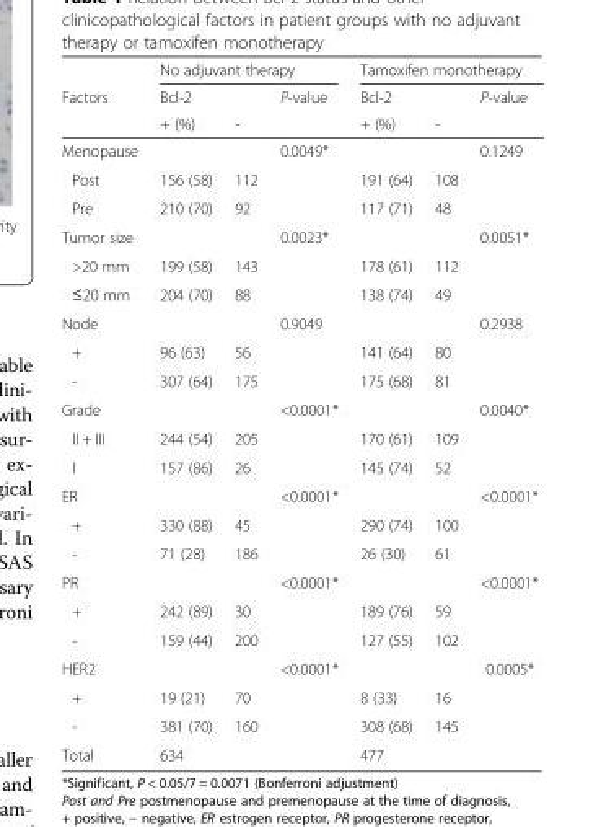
<table><thead><tr><td rowspan="3">Factors</td><td colspan="3">No adjuvant therapy</td><td colspan="3">Tamoxifen monotherapy</td></tr><tr><td rowspan="2">Bcl-2 + (%)</td><td rowspan="2">-</td><td rowspan="2">P-value</td><td rowspan="2">Bcl-2 + (%)</td><td rowspan="2">-</td><td rowspan="2">P-value</td></tr><tr></tr></thead><tbody><tr><td>Menopause</td><td></td><td></td><td>0.0049*</td><td></td><td></td><td>0.1249</td></tr><tr><td>Post</td><td>156 (58)</td><td>112</td><td></td><td>191 (64)</td><td>108</td><td></td></tr><tr><td>Pre</td><td>210 (70)</td><td>92</td><td></td><td>117 (71)</td><td>48</td><td></td></tr><tr><td>Tumor size</td><td colspan="2"></td><td>0.0023*</td><td colspan="2"></td><td>0.0051*</td></tr><tr><td>&gt;20 mm</td><td>199 (58)</td><td>143</td><td></td><td>178 (61)</td><td>112</td><td></td></tr><tr><td>≤20 mm</td><td>204 (70)</td><td>88</td><td></td><td>138 (74)</td><td>49</td><td></td></tr><tr><td>Node</td><td colspan="2"></td><td>0.9049</td><td colspan="2"></td><td>0.2938</td></tr><tr><td>+</td><td>96 (63)</td><td>56</td><td></td><td>141 (64)</td><td>80</td><td></td></tr><tr><td>-</td><td>307 (64)</td><td>175</td><td></td><td>175 (68)</td><td>81</td><td></td></tr><tr><td>Grade</td><td colspan="2"></td><td>&lt;0.0001*</td><td colspan="2"></td><td>0.0040*</td></tr><tr><td>II + III</td><td>244 (54)</td><td>205</td><td></td><td>170 (61)</td><td>109</td><td></td></tr><tr><td>I</td><td>157 (86)</td><td>26</td><td></td><td>145 (74)</td><td>52</td><td></td></tr><tr><td>ER</td><td colspan="2"></td><td>&lt;0.0001*</td><td colspan="2"></td><td>&lt;0.0001*</td></tr><tr><td>+</td><td>330 (88)</td><td>45</td><td></td><td>290 (74)</td><td>100</td><td></td></tr><tr><td>-</td><td>71 (28)</td><td>186</td><td></td><td>26 (30)</td><td>61</td><td></td></tr><tr><td>PR</td><td colspan="2"></td><td>&lt;0.0001*</td><td colspan="2"></td><td>&lt;0.0001*</td></tr><tr><td>+</td><td>242 (89)</td><td>30</td><td></td><td>189 (76)</td><td>59</td><td></td></tr><tr><td>-</td><td>159 (44)</td><td>200</td><td></td><td>127 (55)</td><td>102</td><td></td></tr><tr><td>HER2</td><td colspan="2"></td><td>&lt;0.0001*</td><td colspan="2"></td><td>0.0005*</td></tr><tr><td>+</td><td>19 (21)</td><td>70</td><td></td><td>8 (33)</td><td>16</td><td></td></tr><tr><td>-</td><td>381 (70)</td><td>160</td><td></td><td>308 (68)</td><td>145</td><td></td></tr><tr><td>Total</td><td colspan="2">634</td><td></td><td colspan="2">477</td><td></td></tr></tbody></table>